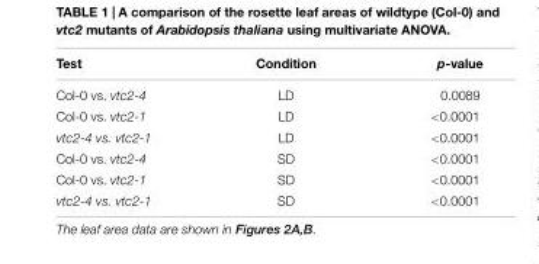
<table><thead><tr><td>Test</td><td>Condition</td><td>p-value</td></tr></thead><tbody><tr><td>Col-0 vs. vtc2-4</td><td>LD</td><td>0.0089</td></tr><tr><td>Col-0 vs. vtc2-1</td><td>LD</td><td>&lt;0.0001</td></tr><tr><td>vtc2-4 vs. vtc2-1</td><td>LD</td><td>&lt;0.0001</td></tr><tr><td>Col-0 vs. vtc2-4</td><td>SD</td><td>&lt;0.0001</td></tr><tr><td>Col-0 vs. vtc2-1</td><td>SD</td><td>&lt;0.0001</td></tr><tr><td>vtc2-4 vs. vtc2-1</td><td>SD</td><td>&lt;0.0001</td></tr></tbody></table>